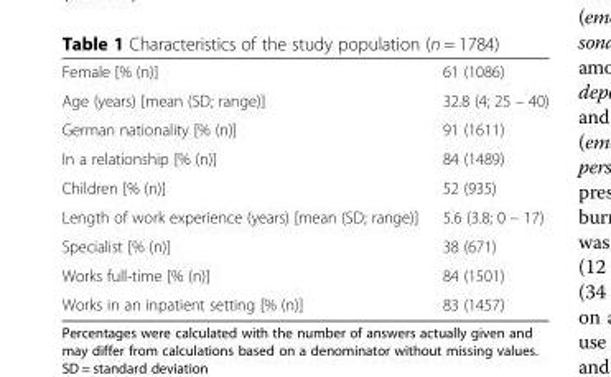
<table><tbody><tr><td>Female [% (n)]</td><td>61 (1086)</td></tr><tr><td>Age (years) [mean (SD; range)]</td><td>32.8 (4; 25 – 40)</td></tr><tr><td>German nationality [% (n)]</td><td>91 (1611)</td></tr><tr><td>In a relationship [% (n)]</td><td>84 (1489)</td></tr><tr><td>Children [% (n)]</td><td>52 (935)</td></tr><tr><td>Length of work experience (years) [mean (SD; range)]</td><td>5.6 (3.8; 0 – 17)</td></tr><tr><td>Specialist [% (n)]</td><td>38 (671)</td></tr><tr><td>Works full-time [% (n)]</td><td>84 (1501)</td></tr><tr><td>Works in an inpatient setting [% (n)]</td><td>83 (1457)</td></tr></tbody></table>